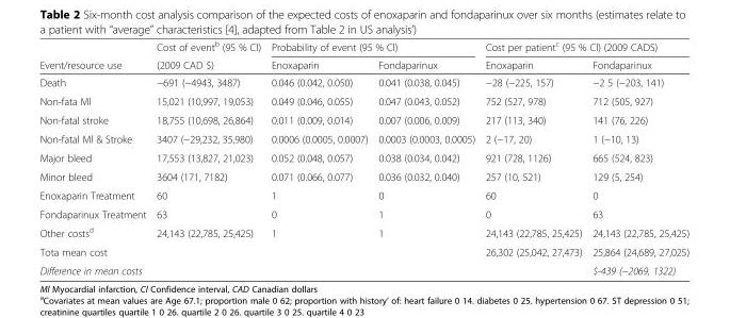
<table><thead><tr><td rowspan="2">Event/resource use</td><td rowspan="2">Cost of event<sup>b</sup> (95 % Cl) (2009 CAD $)</td><td colspan="2">Probability of event (95 % Cl)</td><td colspan="2">Cost per patient<sup>c</sup> (95 % Cl) (2009 CADS)</td></tr><tr><td>Enoxaparin</td><td>Fondaparinux</td><td>Enoxaparin</td><td>Fondaparinux</td></tr></thead><tbody><tr><td>Death</td><td>−691 (−4943, 3487)</td><td>0.046 (0.042, 0.050)</td><td>0.041 (0.038, 0.045)</td><td>−28 (−225, 157)</td><td>−2 5 (−203, 141)</td></tr><tr><td>Non-fata Ml</td><td>15,021 (10,997, 19,053)</td><td>0.049 (0.046, 0.055)</td><td>0.047 (0.043, 0.052)</td><td>752 (527, 978)</td><td>712 (505, 927)</td></tr><tr><td>Non-fatal stroke</td><td>18,755 (10,698, 26,864)</td><td>0.011 (0.009, 0.014)</td><td>0.007 (0.006, 0.009)</td><td>217 (113, 340)</td><td>141 (76, 226)</td></tr><tr><td>Non-fatal Ml &amp; Stroke</td><td>3407 (−29,232, 35,980)</td><td>0.0006 (0.0005, 0.0007)</td><td>0.0003 (0.0003, 0.0005)</td><td>2 (−17, 20)</td><td>1 (−10, 13)</td></tr><tr><td>Major bleed</td><td>17,553 (13,827, 21,023)</td><td>0.052 (0.048, 0.057)</td><td>0.038 (0.034, 0.042)</td><td>921 (728, 1126)</td><td>665 (524, 823)</td></tr><tr><td>Minor bleed</td><td>3604 (171, 7182)</td><td>0.071 (0.066, 0.077)</td><td>0.036 (0.032, 0.040)</td><td>257 (10, 521)</td><td>129 (5, 254)</td></tr><tr><td>Enoxaparin Treatment</td><td>60</td><td>1</td><td>0</td><td>60</td><td>0</td></tr><tr><td>Fondaparinux Treatment</td><td>63</td><td>0</td><td>1</td><td>0</td><td>63</td></tr><tr><td>Other costs<sup>d</sup></td><td>24,143 (22,785, 25,425)</td><td>1</td><td>1</td><td>24,143 (22,785, 25,425)</td><td>24,143 (22,785, 25,425)</td></tr><tr><td>Tota mean cost</td><td></td><td></td><td></td><td>26,302 (25,042, 27,473)</td><td>25,864 (24,689, 27,025)</td></tr><tr><td>Difference in mean costs</td><td></td><td></td><td></td><td></td><td>$-439 (−2069, 1322)</td></tr></tbody></table>